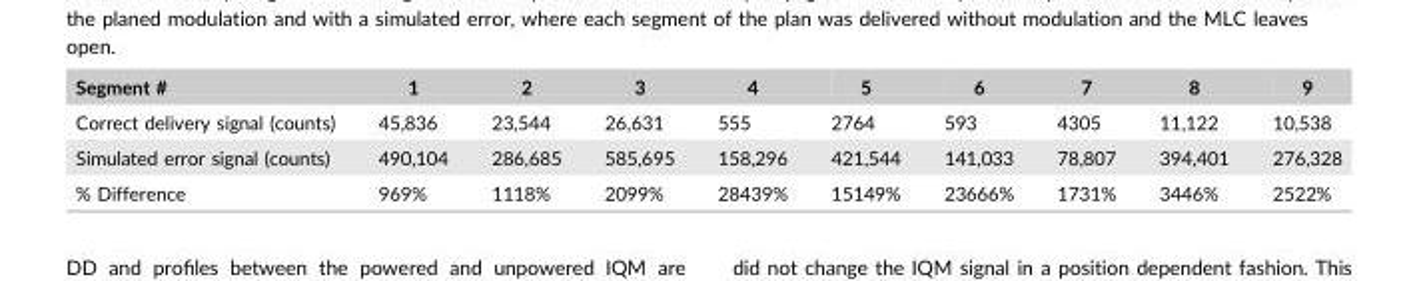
<table><thead><tr><td>Segment #</td><td>1</td><td>2</td><td>3</td><td>4</td><td>5</td><td>6</td><td>7</td><td>8</td><td>9</td></tr></thead><tbody><tr><td>Correct delivery signal (counts)</td><td>45,836</td><td>23,544</td><td>26,631</td><td>555</td><td>2764</td><td>593</td><td>4305</td><td>11,122</td><td>10,538</td></tr><tr><td>Simulated error signal (counts)</td><td>490,104</td><td>286,685</td><td>585,695</td><td>158,296</td><td>421,544</td><td>141,033</td><td>78,807</td><td>394,401</td><td>276,328</td></tr><tr><td>% Difference</td><td>969%</td><td>1118%</td><td>2099%</td><td>28439%</td><td>15149%</td><td>23666%</td><td>1731%</td><td>3446%</td><td>2522%</td></tr></tbody></table>